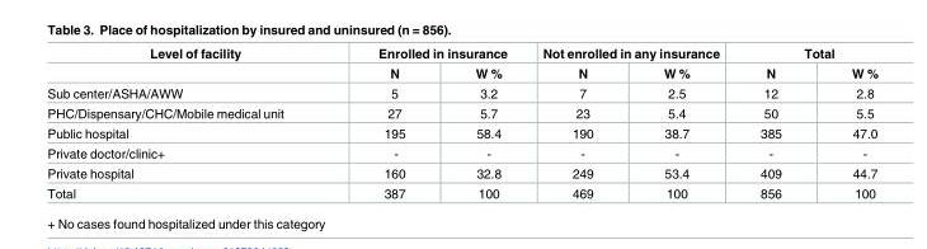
<table><thead><tr><td rowspan="2">Level of facility</td><td colspan="2">Enrolled in insurance</td><td colspan="2">Not enrolled in any insurance</td><td colspan="2">Total</td></tr><tr><td>N</td><td>W %</td><td>N</td><td>W %</td><td>N</td><td>W %</td></tr></thead><tbody><tr><td>Sub center/ASHA/AWW</td><td>5</td><td>3.2</td><td>7</td><td>2.5</td><td>12</td><td>2.8</td></tr><tr><td>PHC/Dispensary/CHC/Mobile medical unit</td><td>27</td><td>5.7</td><td>23</td><td>5.4</td><td>50</td><td>5.5</td></tr><tr><td>Public hospital</td><td>195</td><td>58.4</td><td>190</td><td>38.7</td><td>385</td><td>47.0</td></tr><tr><td>Private doctor/clinic+</td><td>-</td><td>-</td><td>-</td><td>-</td><td>-</td><td>-</td></tr><tr><td>Private hospital</td><td>160</td><td>32.8</td><td>249</td><td>53.4</td><td>409</td><td>44.7</td></tr><tr><td>Total</td><td>387</td><td>100</td><td>469</td><td>100</td><td>856</td><td>100</td></tr></tbody></table>